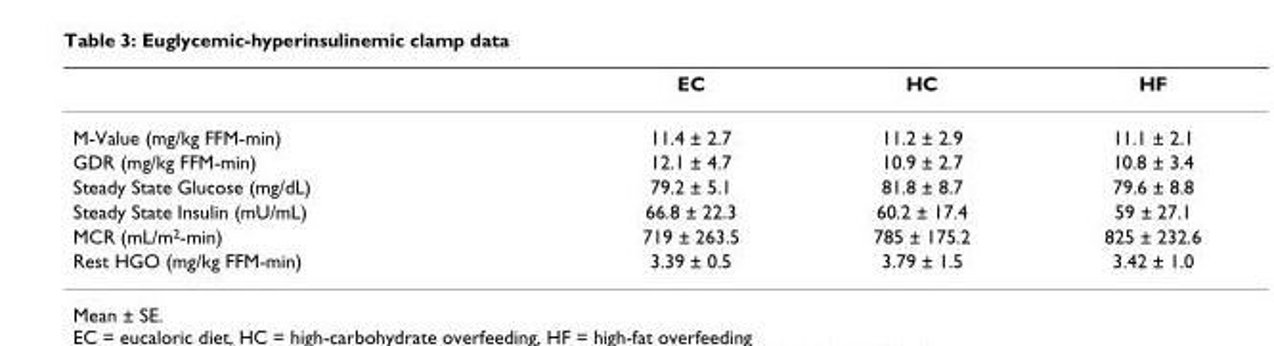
<table><thead><tr><td></td><td>EC</td><td>HC</td><td>HF</td></tr></thead><tbody><tr><td>M-Value (mg/kg FFM-min)</td><td>11.4 ± 2.7</td><td>11.2 ± 2.9</td><td>11.1 ± 2.1</td></tr><tr><td>GDR (mg/kg FFM-min)</td><td>12.1 ± 4.7</td><td>10.9 ± 2.7</td><td>10.8 ± 3.4</td></tr><tr><td>Steady State Glucose (mg/dL)</td><td>79.2 ± 5.1</td><td>81.8 ± 8.7</td><td>79.6 ± 8.8</td></tr><tr><td>Steady State Insulin (mU/mL)</td><td>66.8 ± 22.3</td><td>60.2 ± 17.4</td><td>59 ± 27.1</td></tr><tr><td>MCR (mL/m<sup>2</sup>-min)</td><td>719 ± 263.5</td><td>785 ± 175.2</td><td>825 ± 232.6</td></tr><tr><td>Rest HGO (mg/kg FFM-min)</td><td>3.39 ± 0.5</td><td>3.79 ± 1.5</td><td>3.42 ± 1.0</td></tr></tbody></table>